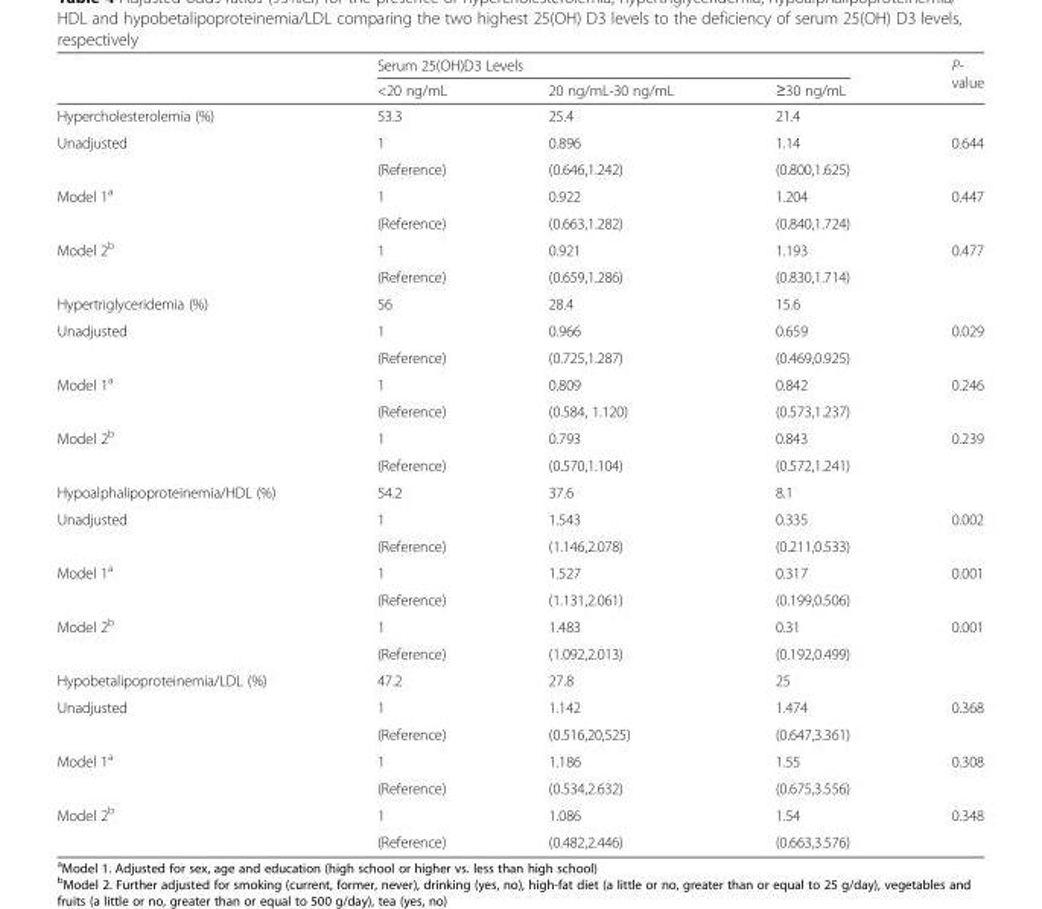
<table><thead><tr><td rowspan="2"></td><td colspan="3">Serum 25(OH)D3 Levels</td><td rowspan="2">P- value</td></tr><tr><td>&lt;20 ng/mL</td><td>20 ng/mL-30 ng/mL</td><td>≥30 ng/mL</td></tr></thead><tbody><tr><td>Hypercholesterolemia (%)</td><td>53.3</td><td>25.4</td><td>21.4</td><td></td></tr><tr><td rowspan="2">Unadjusted</td><td>1</td><td>0.896</td><td>1.14</td><td>0.644</td></tr><tr><td>(Reference)</td><td>(0.646,1.242)</td><td>(0.800,1.625)</td><td></td></tr><tr><td rowspan="2">Model 1<sup>a</sup></td><td>1</td><td>0.922</td><td>1.204</td><td>0.447</td></tr><tr><td>(Reference)</td><td>(0.663,1.282)</td><td>(0.840,1.724)</td><td></td></tr><tr><td rowspan="2">Model 2<sup>b</sup></td><td>1</td><td>0.921</td><td>1.193</td><td>0.477</td></tr><tr><td>(Reference)</td><td>(0.659,1.286)</td><td>(0.830,1.714)</td><td></td></tr><tr><td>Hypertriglyceridemia (%)</td><td>56</td><td>28.4</td><td>15.6</td><td></td></tr><tr><td rowspan="2">Unadjusted</td><td>1</td><td>0.966</td><td>0.659</td><td>0.029</td></tr><tr><td>(Reference)</td><td>(0.725,1.287)</td><td>(0.469,0.925)</td><td></td></tr><tr><td rowspan="2">Model 1<sup>a</sup></td><td>1</td><td>0.809</td><td>0.842</td><td>0.246</td></tr><tr><td>(Reference)</td><td>(0.584, 1.120)</td><td>(0.573,1.237)</td><td></td></tr><tr><td rowspan="2">Model 2<sup>b</sup></td><td>1</td><td>0.793</td><td>0.843</td><td>0.239</td></tr><tr><td>(Reference)</td><td>(0.570,1.104)</td><td>(0.572,1.241)</td><td></td></tr><tr><td>Hypoalphalipoproteinemia/HDL (%)</td><td>54.2</td><td>37.6</td><td>8.1</td><td></td></tr><tr><td rowspan="2">Unadjusted</td><td>1</td><td>1.543</td><td>0.335</td><td>0.002</td></tr><tr><td>(Reference)</td><td>(1.146,2.078)</td><td>(0.211,0.533)</td><td></td></tr><tr><td rowspan="2">Model 1<sup>a</sup></td><td>1</td><td>1.527</td><td>0.317</td><td>0.001</td></tr><tr><td>(Reference)</td><td>(1.131,2.061)</td><td>(0.199,0.506)</td><td></td></tr><tr><td rowspan="2">Model 2<sup>b</sup></td><td>1</td><td>1.483</td><td>0.31</td><td>0.001</td></tr><tr><td>(Reference)</td><td>(1.092,2.013)</td><td>(0.192,0.499)</td><td></td></tr><tr><td>Hypobetalipoproteinemia/LDL (%)</td><td>47.2</td><td>27.8</td><td>25</td><td></td></tr><tr><td rowspan="2">Unadjusted</td><td>1</td><td>1.142</td><td>1.474</td><td>0.368</td></tr><tr><td>(Reference)</td><td>(0.516,20,525)</td><td>(0.647,3.361)</td><td></td></tr><tr><td rowspan="2">Model 1<sup>a</sup></td><td>1</td><td>1.186</td><td>1.55</td><td>0.308</td></tr><tr><td>(Reference)</td><td>(0.534,2.632)</td><td>(0.675,3.556)</td><td></td></tr><tr><td rowspan="2">Model 2<sup>b</sup></td><td>1</td><td>1.086</td><td>1.54</td><td>0.348</td></tr><tr><td>(Reference)</td><td>(0.482,2.446)</td><td>(0.663,3.576)</td><td></td></tr></tbody></table>